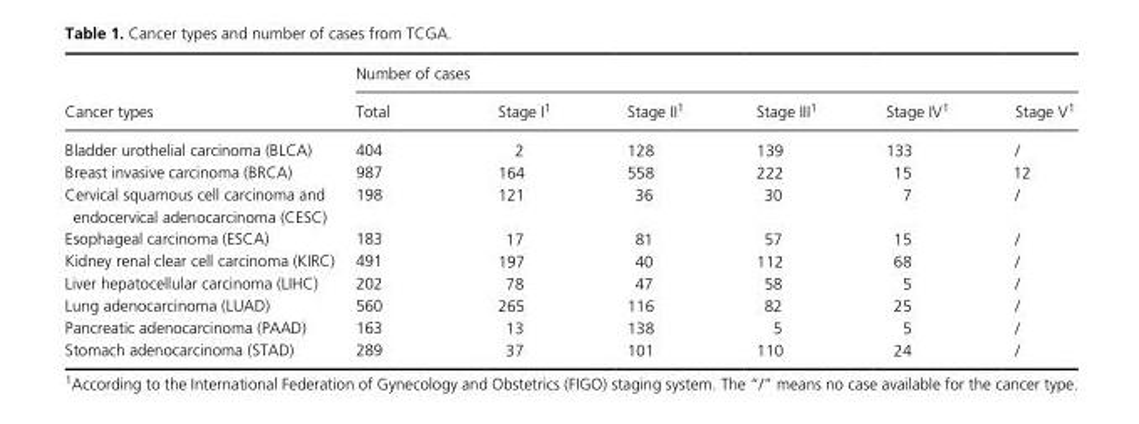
<table><thead><tr><td rowspan="2">Cancer types</td><td colspan="6">Number of cases</td></tr><tr><td>Total</td><td>Stage I1</td><td>Stage II1</td><td>Stage III1</td><td>Stage IV1</td><td>Stage V1</td></tr></thead><tbody><tr><td>Bladder urothelial carcinoma (BLCA)</td><td>404</td><td>2</td><td>128</td><td>139</td><td>133</td><td>/</td></tr><tr><td>Breast invasive carcinoma (BRCA)</td><td>987</td><td>164</td><td>558</td><td>222</td><td>15</td><td>12</td></tr><tr><td>Cervical squamous cell carcinoma and endocervical adenocarcinoma (CESC)</td><td>198</td><td>121</td><td>36</td><td>30</td><td>7</td><td>/</td></tr><tr><td>Esophageal carcinoma (ESCA)</td><td>183</td><td>17</td><td>81</td><td>57</td><td>15</td><td>/</td></tr><tr><td>Kidney renal clear cell carcinoma (KIRC)</td><td>491</td><td>197</td><td>40</td><td>112</td><td>68</td><td>/</td></tr><tr><td>Liver hepatocellular carcinoma (LIHC)</td><td>202</td><td>78</td><td>47</td><td>58</td><td>5</td><td>/</td></tr><tr><td>Lung adenocarcinoma (LUAD)</td><td>560</td><td>265</td><td>116</td><td>82</td><td>25</td><td>/</td></tr><tr><td>Pancreatic adenocarcinoma (PAAD)</td><td>163</td><td>13</td><td>138</td><td>5</td><td>5</td><td>/</td></tr><tr><td>Stomach adenocarcinoma (STAD)</td><td>289</td><td>37</td><td>101</td><td>110</td><td>24</td><td>/</td></tr></tbody></table>